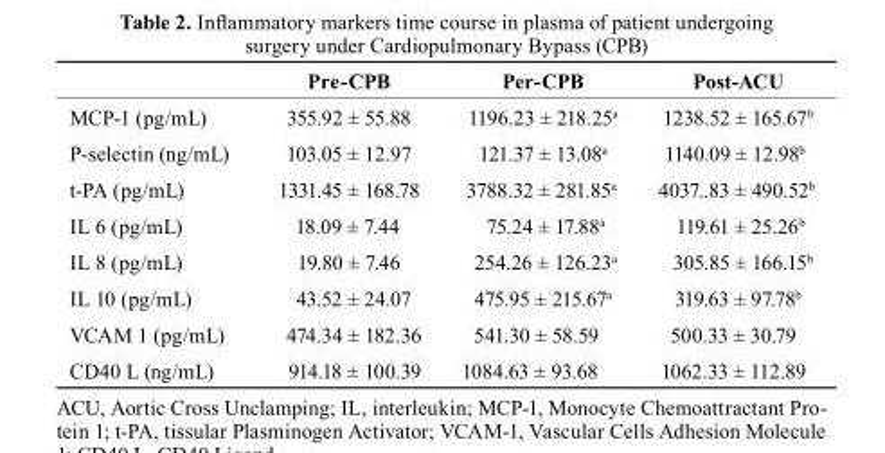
<table><thead><tr><td></td><td>Pre-cPb</td><td>Per-cPb</td><td>Post-ACu</td></tr></thead><tbody><tr><td>MCP-1 (pg/mL)</td><td>355.92 ± 55.88</td><td>1196.23 ± 218.25<sup>a</sup></td><td>1238.52 ± 165.67<sup>b</sup></td></tr><tr><td>P-selectin (ng/mL)</td><td>103.05 ± 12.97</td><td>121.37 ± 13.08<sup>a</sup></td><td>1140.09 ± 12.98<sup>b</sup></td></tr><tr><td>t-PA (pg/mL)</td><td>1331.45 ± 168.78</td><td>3788.32 ± 281.85<sup>a</sup></td><td>4037..83 ± 490.52<sup>b</sup></td></tr><tr><td>IL 6 (pg/mL)</td><td>18.09 ± 7.44</td><td>75.24 ± 17.88<sup>a</sup></td><td>119.61 ± 25.26<sup>b</sup></td></tr><tr><td>IL 8 (pg/mL)</td><td>19.80 ± 7.46</td><td>254.26 ± 126.23<sup>a</sup></td><td>305.85 ± 166.15<sup>b</sup></td></tr><tr><td>IL 10 (pg/mL)</td><td>43.52 ± 24.07</td><td>475.95 ± 215.67<sup>a</sup></td><td>319.63 ± 97.78<sup>b</sup></td></tr><tr><td>VCAM 1 (pg/mL)</td><td>474.34 ± 182.36</td><td>541.30 ± 58.59</td><td>500.33 ± 30.79</td></tr><tr><td>CD40 L (ng/mL)</td><td>914.18 ± 100.39</td><td>1084.63 ± 93.68</td><td>1062.33 ± 112.89</td></tr></tbody></table>